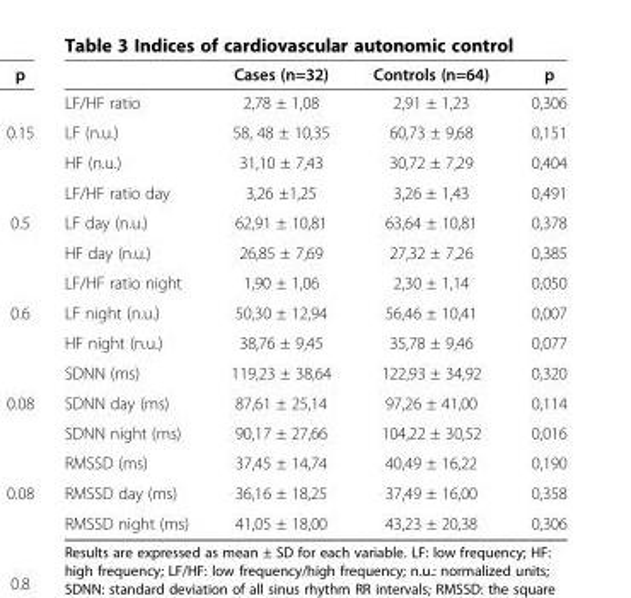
<table><thead><tr><td></td><td>Cases (n=32)</td><td>Controls (n=64)</td><td>p</td></tr></thead><tbody><tr><td>LF/HF ratio</td><td>2,78 ± 1,08</td><td>2,91 ± 1,23</td><td>0,306</td></tr><tr><td>LF (n.u.)</td><td>58, 48 ± 10,35</td><td>60,73 ± 9,68</td><td>0,151</td></tr><tr><td>HF (n.u.)</td><td>31,10 ± 7,43</td><td>30,72 ± 7,29</td><td>0,404</td></tr><tr><td>LF/HF ratio day</td><td>3,26 ±1,25</td><td>3,26 ± 1,43</td><td>0,491</td></tr><tr><td>LF day (n.u.)</td><td>62,91 ± 10,81</td><td>63,64 ± 10,81</td><td>0,378</td></tr><tr><td>HF day (n.u.)</td><td>26,85 ± 7,69</td><td>27,32 ± 7,26</td><td>0,385</td></tr><tr><td>LF/HF ratio night</td><td>1,90 ± 1,06</td><td>2,30 ± 1,14</td><td>0,050</td></tr><tr><td>LF night (n.u.)</td><td>50,30 ± 12,94</td><td>56,46 ± 10,41</td><td>0,007</td></tr><tr><td>HF night (n.u.)</td><td>38,76 ± 9,45</td><td>35,78 ± 9,46</td><td>0,077</td></tr><tr><td>SDNN (ms)</td><td>119,23 ± 38,64</td><td>122,93 ± 34,92</td><td>0,320</td></tr><tr><td>SDNN day (ms)</td><td>87,61 ± 25,14</td><td>97,26 ± 41,00</td><td>0,114</td></tr><tr><td>SDNN night (ms)</td><td>90,17 ± 27,66</td><td>104,22 ± 30,52</td><td>0,016</td></tr><tr><td>RMSSD (ms)</td><td>37,45 ± 14,74</td><td>40,49 ± 16,22</td><td>0,190</td></tr><tr><td>RMSSD day (ms)</td><td>36,16 ± 18,25</td><td>37,49 ± 16,00</td><td>0,358</td></tr><tr><td>RMSSD night (ms)</td><td>41,05 ± 18,00</td><td>43,23 ± 20,38</td><td>0,306</td></tr></tbody></table>